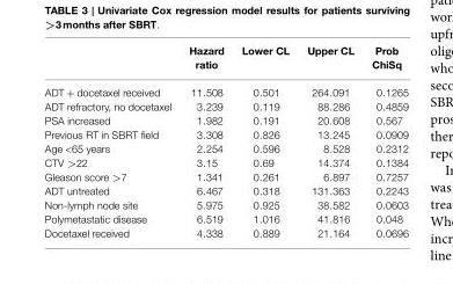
<table><thead><tr><td></td><td>Hazard ratio</td><td>Lower CL</td><td>Upper CL</td><td>Prob ChiSq</td></tr></thead><tbody><tr><td>ADT + docetaxel received</td><td>11.508</td><td>0.501</td><td>264.091</td><td>0.1265</td></tr><tr><td>ADT refractory, no docetaxel</td><td>3.239</td><td>0.119</td><td>88.286</td><td>0.4859</td></tr><tr><td>PSA increased</td><td>1.982</td><td>0.191</td><td>20.608</td><td>0.567</td></tr><tr><td>Previous RT in SBRT field</td><td>3.308</td><td>0.826</td><td>13.245</td><td>0.0909</td></tr><tr><td>Age &lt;65 years</td><td>2.254</td><td>0.596</td><td>8.528</td><td>0.2312</td></tr><tr><td>CTV &gt;22</td><td>3.15</td><td>0.69</td><td>14.374</td><td>0.1384</td></tr><tr><td>Gleason score &gt;7</td><td>1.341</td><td>0.261</td><td>6.897</td><td>0.7257</td></tr><tr><td>ADT untreated</td><td>6.467</td><td>0.318</td><td>131.363</td><td>0.2243</td></tr><tr><td>Non-lymph node site</td><td>5.975</td><td>0.925</td><td>38.582</td><td>0.0603</td></tr><tr><td>Polymetastatic disease</td><td>6.519</td><td>1.016</td><td>41.816</td><td>0.048</td></tr><tr><td>Docetaxel received</td><td>4.338</td><td>0.889</td><td>21.164</td><td>0.0696</td></tr></tbody></table>